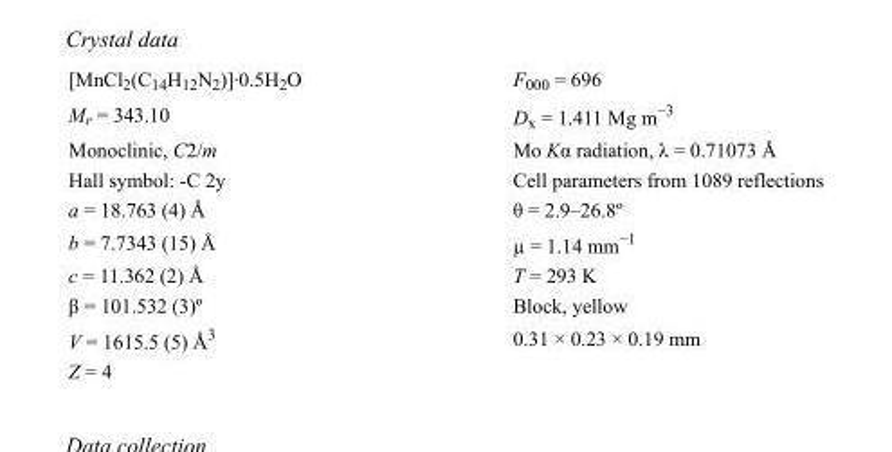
<table><tbody><tr><td>[MnCl<sub>2</sub>(C<sub>14</sub>H<sub>12</sub>N<sub>2</sub>)]·0.5H<sub>2</sub>O</td><td>F000 = 696</td></tr><tr><td>M<sub>r</sub> = 343.10</td><td>D<sub>x</sub> = 1.411 Mg m<sup>−3</sup></td></tr><tr><td>Monoclinic, C2/m</td><td>Mo Kα radiation, λ = 0.71073 Å</td></tr><tr><td>Hall symbol: -C 2y</td><td>Cell parameters from 1089 reflections</td></tr><tr><td>a = 18.763 (4) Å</td><td>θ = 2.9–26.8º</td></tr><tr><td>b = 7.7343 (15) Å</td><td>µ = 1.14 mm<sup>−1</sup></td></tr><tr><td>c = 11.362 (2) Å</td><td>T = 293 K</td></tr><tr><td>β = 101.532 (3)º</td><td>Block, yellow</td></tr><tr><td>V = 1615.5 (5) Å<sup>3</sup></td><td>0.31 × 0.23 × 0.19 mm</td></tr><tr><td>Z = 4</td><td></td></tr></tbody></table>